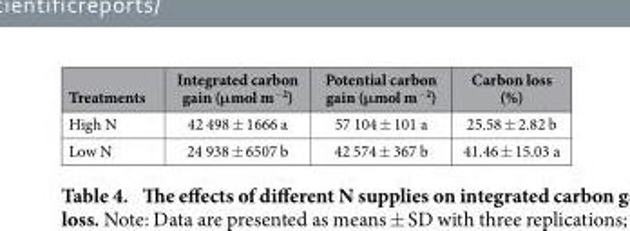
<table><thead><tr><td>Treatments</td><td>Integrated carbon gain (μ mol m<sup>−2</sup>)</td><td>Potential carbon gain (μ mol m<sup>−2</sup>)</td><td>Carbon loss (%)</td></tr></thead><tbody><tr><td>High N</td><td>42 498 ± 1666 a</td><td>57 104 ± 101 a</td><td>25.58 ± 2.82 b</td></tr><tr><td>Low N</td><td>24 938 ± 6507 b</td><td>42 574 ± 367 b</td><td>41.46 ± 15.03 a</td></tr></tbody></table>